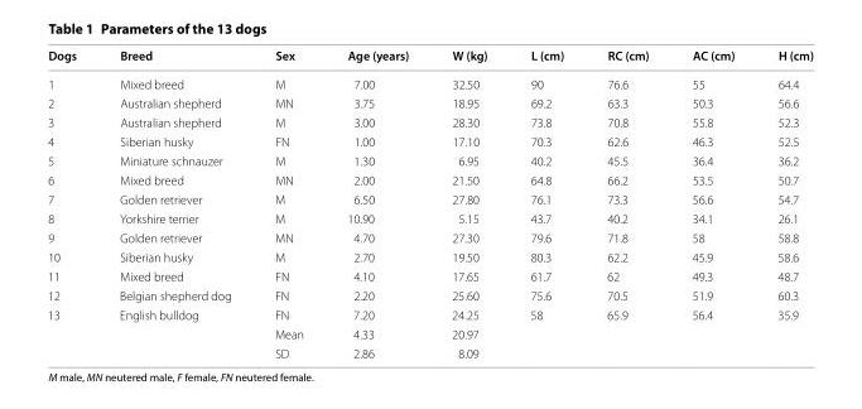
<table><thead><tr><td>Dogs</td><td>Breed</td><td>Sex</td><td>Age (years)</td><td>W (kg)</td><td>L (cm)</td><td>RC (cm)</td><td>AC (cm)</td><td>H (cm)</td></tr></thead><tbody><tr><td>1</td><td>Mixed breed</td><td>M</td><td>7.00</td><td>32.50</td><td>90</td><td>76.6</td><td>55</td><td>64.4</td></tr><tr><td>2</td><td>Australian shepherd</td><td>MN</td><td>3.75</td><td>18.95</td><td>69.2</td><td>63.3</td><td>50.3</td><td>56.6</td></tr><tr><td>3</td><td>Australian shepherd</td><td>M</td><td>3.00</td><td>28.30</td><td>73.8</td><td>70.8</td><td>55.8</td><td>52.3</td></tr><tr><td>4</td><td>Siberian husky</td><td>FN</td><td>1.00</td><td>17.10</td><td>70.3</td><td>62.6</td><td>46.3</td><td>52.5</td></tr><tr><td>5</td><td>Miniature schnauzer</td><td>M</td><td>1.30</td><td>6.95</td><td>40.2</td><td>45.5</td><td>36.4</td><td>36.2</td></tr><tr><td>6</td><td>Mixed breed</td><td>MN</td><td>2.00</td><td>21.50</td><td>64.8</td><td>66.2</td><td>53.5</td><td>50.7</td></tr><tr><td>7</td><td>Golden retriever</td><td>M</td><td>6.50</td><td>27.80</td><td>76.1</td><td>73.3</td><td>56.6</td><td>54.7</td></tr><tr><td>8</td><td>Yorkshire terrier</td><td>M</td><td>10.90</td><td>5.15</td><td>43.7</td><td>40.2</td><td>34.1</td><td>26.1</td></tr><tr><td>9</td><td>Golden retriever</td><td>MN</td><td>4.70</td><td>27.30</td><td>79.6</td><td>71.8</td><td>58</td><td>58.8</td></tr><tr><td>10</td><td>Siberian husky</td><td>M</td><td>2.70</td><td>19.50</td><td>80.3</td><td>62.2</td><td>45.9</td><td>58.6</td></tr><tr><td>11</td><td>Mixed breed</td><td>FN</td><td>4.10</td><td>17.65</td><td>61.7</td><td>62</td><td>49.3</td><td>48.7</td></tr><tr><td>12</td><td>Belgian shepherd dog</td><td>FN</td><td>2.20</td><td>25.60</td><td>75.6</td><td>70.5</td><td>51.9</td><td>60.3</td></tr><tr><td rowspan="3">13</td><td>English bulldog</td><td>FN</td><td>7.20</td><td>24.25</td><td>58</td><td>65.9</td><td>56.4</td><td>35.9</td></tr><tr><td></td><td>Mean</td><td>4.33</td><td>20.97</td><td></td><td></td><td></td><td></td></tr><tr><td></td><td>SD</td><td>2.86</td><td>8.09</td><td></td><td></td><td></td><td></td></tr></tbody></table>